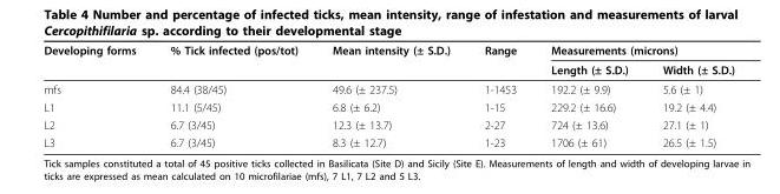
<table><thead><tr><td rowspan="2">Developing forms</td><td rowspan="2">% Tick infected (pos/tot)</td><td rowspan="2">Mean intensity (± S.D.)</td><td rowspan="2">Range</td><td colspan="2">Measurements (microns)</td></tr><tr><td>Length (± S.D.)</td><td>Width (± S.D.)</td></tr></thead><tbody><tr><td>mfs</td><td>84.4 (38/45)</td><td>49.6 (± 237.5)</td><td>1-1453</td><td>192.2 (± 9.9)</td><td>5.6 (± 1)</td></tr><tr><td>L1</td><td>11.1 (5/45)</td><td>6.8 (± 6.2)</td><td>1-15</td><td>229.2 (± 16.6)</td><td>19.2 (± 4.4)</td></tr><tr><td>L2</td><td>6.7 (3/45)</td><td>12.3 (± 13.7)</td><td>2-27</td><td>724 (± 13.6)</td><td>27.1 (± 1)</td></tr><tr><td>L3</td><td>6.7 (3/45)</td><td>8.3 (± 12.7)</td><td>1-23</td><td>1706 (± 61)</td><td>26.5 (± 1.5)</td></tr></tbody></table>